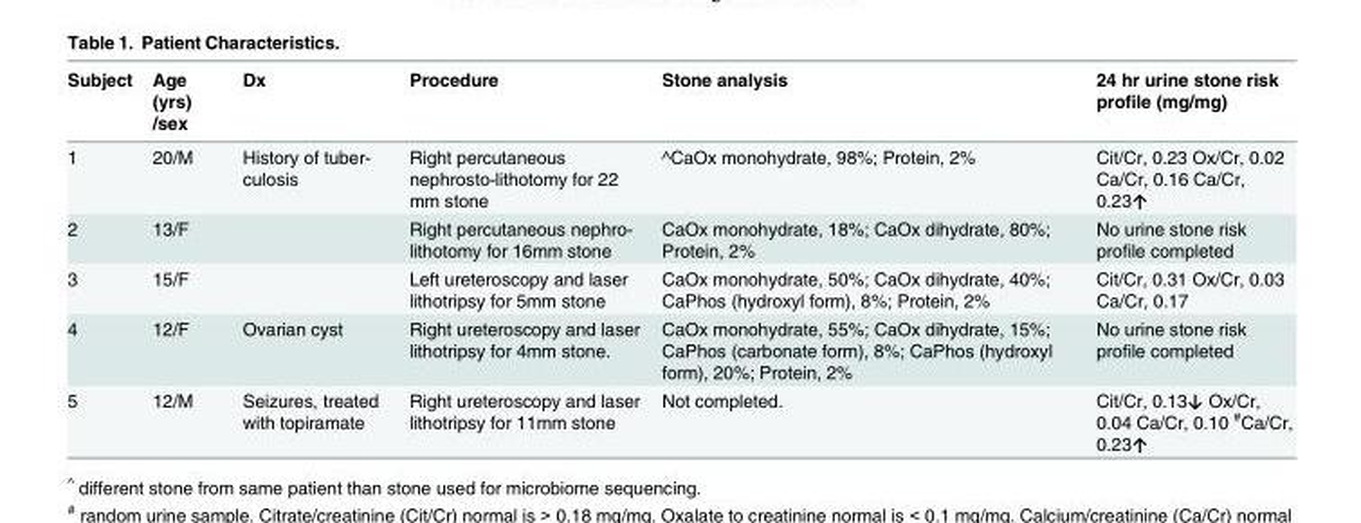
<table><thead><tr><td>Subject</td><td>Age (yrs) /sex</td><td>Dx</td><td>Procedure</td><td>Stone analysis</td><td>24 hr urine stone risk profile (mg/mg)</td></tr></thead><tbody><tr><td>1</td><td>20/M</td><td>History of tuber- culosis</td><td>Right percutaneous nephrosto-lithotomy for 22 mm stone</td><td>^CaOx monohydrate, 98%; Protein, 2%</td><td>Cit/Cr, 0.23 Ox/Cr, 0.02 Ca/Cr, 0.16 Ca/Cr, 0.23↑</td></tr><tr><td>2</td><td>13/F</td><td></td><td>Right percutaneous nephro- lithotomy for 16mm stone</td><td>CaOx monohydrate, 18%; CaOx dihydrate, 80%; Protein, 2%</td><td>No urine stone risk profile completed</td></tr><tr><td>3</td><td>15/F</td><td></td><td>Left ureteroscopy and laser lithotripsy for 5mm stone</td><td>CaOx monohydrate, 50%; CaOx dihydrate, 40%; CaPhos (hydroxyl form), 8%; Protein, 2%</td><td>Cit/Cr, 0.31 Ox/Cr, 0.03 Ca/Cr, 0.17</td></tr><tr><td>4</td><td>12/F</td><td>Ovarian cyst</td><td>Right ureteroscopy and laser lithotripsy for 4mm stone.</td><td>CaOx monohydrate, 55%; CaOx dihydrate, 15%; CaPhos (carbonate form), 8%; CaPhos (hydroxyl form), 20%; Protein, 2%</td><td>No urine stone risk profile completed</td></tr><tr><td>5</td><td>12/M</td><td>Seizures, treated with topiramate</td><td>Right ureteroscopy and laser lithotripsy for 11mm stone</td><td>Not completed.</td><td>Cit/Cr, 0.13↓ Ox/Cr, 0.04 Ca/Cr, 0.10 <sup>#</sup>Ca/Cr, 0.23↑</td></tr></tbody></table>